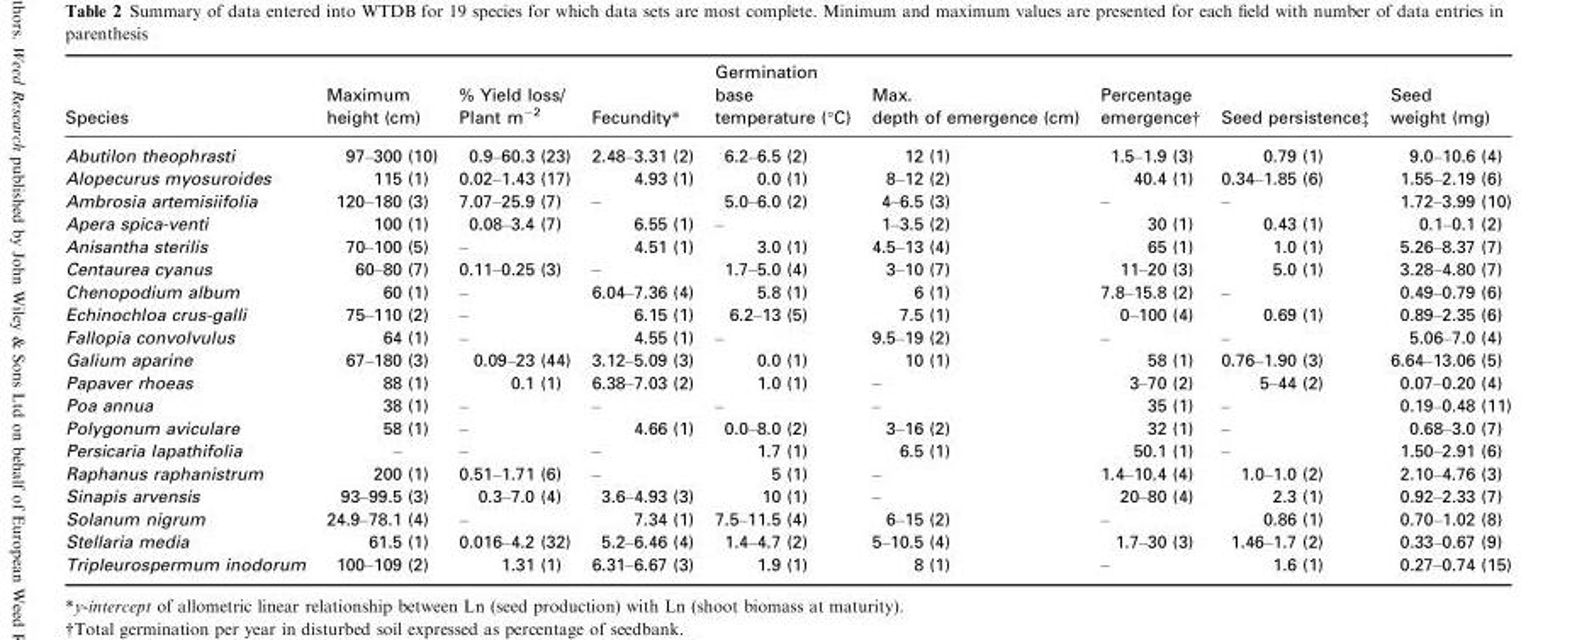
<table><thead><tr><td>Species</td><td>Maximum height (cm)</td><td>% Yield loss/ Plant m<sup>−2</sup></td><td>Fecundity*</td><td>Germination base temperature (°C)</td><td>Max. depth of emergence (cm)</td><td>Percentage emergence†</td><td>Seed persistence‡</td><td>Seed weight (mg)</td></tr></thead><tbody><tr><td>Abutilon theophrasti</td><td>97–300 (10)</td><td>0.9–60.3 (23)</td><td>2.48–3.31 (2)</td><td>6.2–6.5 (2)</td><td>12 (1)</td><td>1.5–1.9 (3)</td><td>0.79 (1)</td><td>9.0–10.6 (4)</td></tr><tr><td>Alopecurus myosuroides</td><td>115 (1)</td><td>0.02–1.43 (17)</td><td>4.93 (1)</td><td>0.0 (1)</td><td>8–12 (2)</td><td>40.4 (1)</td><td>0.34–1.85 (6)</td><td>1.55–2.19 (6)</td></tr><tr><td>Ambrosia artemisiifolia</td><td>120–180 (3)</td><td>7.07–25.9 (7)</td><td>–</td><td>5.0–6.0 (2)</td><td>4–6.5 (3)</td><td>–</td><td>–</td><td>1.72–3.99 (10)</td></tr><tr><td>Apera spica-venti</td><td>100 (1)</td><td>0.08–3.4 (7)</td><td>6.55 (1)</td><td>–</td><td>1–3.5 (2)</td><td>30 (1)</td><td>0.43 (1)</td><td>0.1–0.1 (2)</td></tr><tr><td>Anisantha sterilis</td><td>70–100 (5)</td><td>–</td><td>4.51 (1)</td><td>3.0 (1)</td><td>4.5–13 (4)</td><td>65 (1)</td><td>1.0 (1)</td><td>5.26–8.37 (7)</td></tr><tr><td>Centaurea cyanus</td><td>60–80 (7)</td><td>0.11–0.25 (3)</td><td>–</td><td>1.7–5.0 (4)</td><td>3–10 (7)</td><td>11–20 (3)</td><td>5.0 (1)</td><td>3.28–4.80 (7)</td></tr><tr><td>Chenopodium album</td><td>60 (1)</td><td>–</td><td>6.04–7.36 (4)</td><td>5.8 (1)</td><td>6 (1)</td><td>7.8–15.8 (2)</td><td>–</td><td>0.49–0.79 (6)</td></tr><tr><td>Echinochloa crus-galli</td><td>75–110 (2)</td><td>–</td><td>6.15 (1)</td><td>6.2–13 (5)</td><td>7.5 (1)</td><td>0–100 (4)</td><td>0.69 (1)</td><td>0.89–2.35 (6)</td></tr><tr><td>Fallopia convolvulus</td><td>64 (1)</td><td>–</td><td>4.55 (1)</td><td>–</td><td>9.5–19 (2)</td><td>–</td><td>–</td><td>5.06–7.0 (4)</td></tr><tr><td>Galium aparine</td><td>67–180 (3)</td><td>0.09–23 (44)</td><td>3.12–5.09 (3)</td><td>0.0 (1)</td><td>10 (1)</td><td>58 (1)</td><td>0.76–1.90 (3)</td><td>6.64–13.06 (5)</td></tr><tr><td>Papaver rhoeas</td><td>88 (1)</td><td>0.1 (1)</td><td>6.38–7.03 (2)</td><td>1.0 (1)</td><td>–</td><td>3–70 (2)</td><td>5–44 (2)</td><td>0.07–0.20 (4)</td></tr><tr><td>Poa annua</td><td>38 (1)</td><td>–</td><td>–</td><td>–</td><td>–</td><td>35 (1)</td><td>–</td><td>0.19–0.48 (11)</td></tr><tr><td>Polygonum aviculare</td><td>58 (1)</td><td>–</td><td>4.66 (1)</td><td>0.0–8.0 (2)</td><td>3–16 (2)</td><td>32 (1)</td><td>–</td><td>0.68–3.0 (7)</td></tr><tr><td>Persicaria lapathifolia</td><td>–</td><td>–</td><td>–</td><td>1.7 (1)</td><td>6.5 (1)</td><td>50.1 (1)</td><td>–</td><td>1.50–2.91 (6)</td></tr><tr><td>Raphanus raphanistrum</td><td>200 (1)</td><td>0.51–1.71 (6)</td><td>–</td><td>5 (1)</td><td>–</td><td>1.4–10.4 (4)</td><td>1.0–1.0 (2)</td><td>2.10–4.76 (3)</td></tr><tr><td>Sinapis arvensis</td><td>93–99.5 (3)</td><td>0.3–7.0 (4)</td><td>3.6–4.93 (3)</td><td>10 (1)</td><td>–</td><td>20–80 (4)</td><td>2.3 (1)</td><td>0.92–2.33 (7)</td></tr><tr><td>Solanum nigrum</td><td>24.9–78.1 (4)</td><td>–</td><td>7.34 (1)</td><td>7.5–11.5 (4)</td><td>6–15 (2)</td><td>–</td><td>0.86 (1)</td><td>0.70–1.02 (8)</td></tr><tr><td>Stellaria media</td><td>61.5 (1)</td><td>0.016–4.2 (32)</td><td>5.2–6.46 (4)</td><td>1.4–4.7 (2)</td><td>5–10.5 (4)</td><td>1.7–30 (3)</td><td>1.46–1.7 (2)</td><td>0.33–0.67 (9)</td></tr><tr><td>Tripleurospermum inodorum</td><td>100–109 (2)</td><td>1.31 (1)</td><td>6.31–6.67 (3)</td><td>1.9 (1)</td><td>8 (1)</td><td>–</td><td>1.6 (1)</td><td>0.27–0.74 (15)</td></tr></tbody></table>